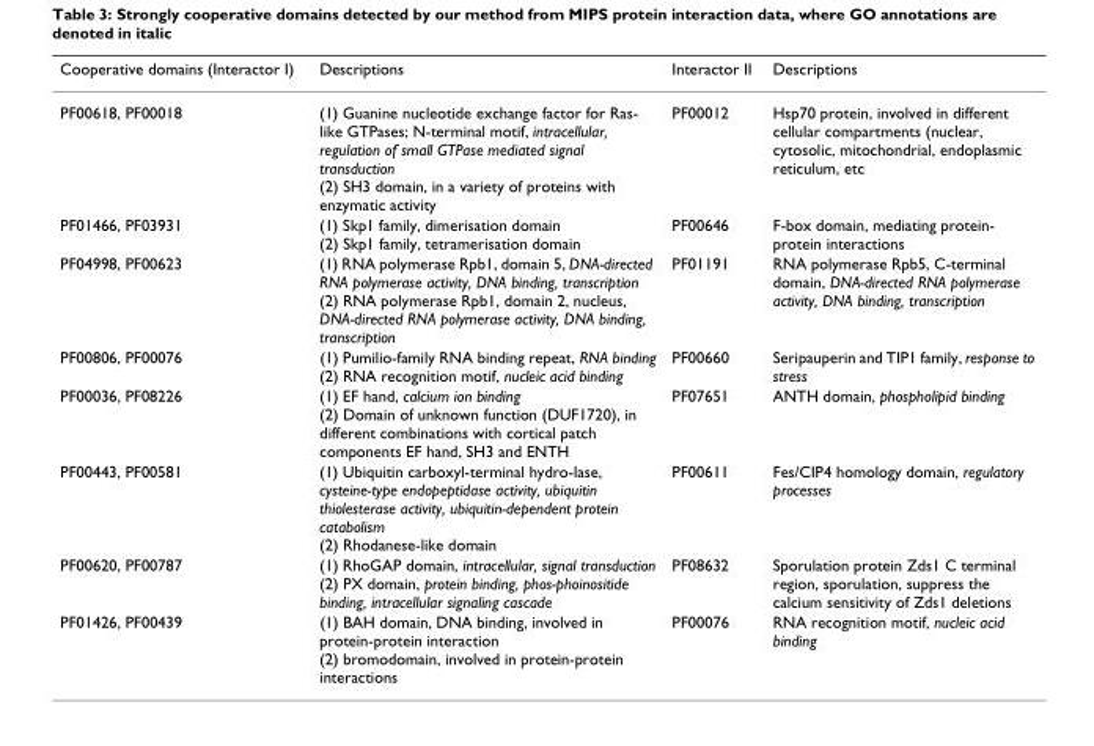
<table><thead><tr><td>Cooperative domains (Interactor I)</td><td>Descriptions</td><td>Interactor II</td><td>Descriptions</td></tr></thead><tbody><tr><td>PF00618, PF00018</td><td>(1) Guanine nucleotide exchange factor for Ras- like GTPases; N-terminal motif, intracellular, regulation of small GTPase mediated signal transduction (2) SH3 domain, in a variety of proteins with enzymatic activity</td><td>PF00012</td><td>Hsp70 protein, involved in different cellular compartments (nuclear, cytosolic, mitochondrial, endoplasmic reticulum, etc</td></tr><tr><td>PF01466, PF03931</td><td>(1) Skp1 family, dimerisation domain (2) Skp1 family, tetramerisation domain</td><td>PF00646</td><td>F-box domain, mediating protein- protein interactions</td></tr><tr><td>PF04998, PF00623</td><td>(1) RNA polymerase Rpb1, domain 5, DNA-directed RNA polymerase activity, DNA binding, transcription (2) RNA polymerase Rpb1, domain 2, nucleus, DNA-directed RNA polymerase activity, DNA binding, transcription</td><td>PF01191</td><td>RNA polymerase Rpb5, C-terminal domain, DNA-directed RNA polymerase activity, DNA binding, transcription</td></tr><tr><td>PF00806, PF00076</td><td>(1) Pumilio-family RNA binding repeat, RNA binding (2) RNA recognition motif, nucleic acid binding</td><td>PF00660</td><td>Seripauperin and TIP1 family, response to stress</td></tr><tr><td>PF00036, PF08226</td><td>(1) EF hand, calcium ion binding (2) Domain of unknown function (DUF1720), in different combinations with cortical patch components EF hand, SH3 and ENTH</td><td>PF07651</td><td>ANTH domain, phospholipid binding</td></tr><tr><td>PF00443, PF00581</td><td>(1) Ubiquitin carboxyl-terminal hydro-lase, cysteine-type endopeptidase activity, ubiquitin thiolesterase activity, ubiquitin-dependent protein catabolism (2) Rhodanese-like domain</td><td>PF00611</td><td>Fes/CIP4 homology domain, regulatory processes</td></tr><tr><td>PF00620, PF00787</td><td>(1) RhoGAP domain, intracellular, signal transduction (2) PX domain, protein binding, phos-phoinositide binding, intracellular signaling cascade</td><td>PF08632</td><td>Sporulation protein Zds1 C terminal region, sporulation, suppress the calcium sensitivity of Zds1 deletions</td></tr><tr><td>PF01426, PF00439</td><td>(1) BAH domain, DNA binding, involved in protein-protein interaction (2) bromodomain, involved in protein-protein interactions</td><td>PF00076</td><td>RNA recognition motif, nucleic acid binding</td></tr></tbody></table>